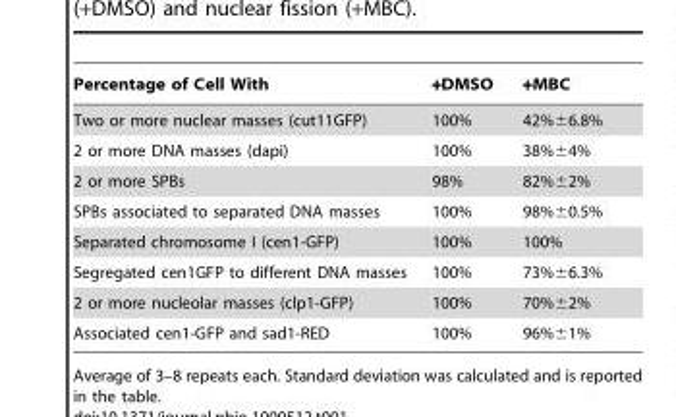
<table><thead><tr><td>Percentage of Cell With</td><td>+DMSO</td><td>+MBC</td></tr></thead><tbody><tr><td>Two or more nuclear masses (cut11GFP)</td><td>100%</td><td>42%±6.8%</td></tr><tr><td>2 or more DNA masses (dapi)</td><td>100%</td><td>38%±4%</td></tr><tr><td>2 or more SPBs</td><td>98%</td><td>82%±2%</td></tr><tr><td>SPBs associated to separated DNA masses</td><td>100%</td><td>98%±0.5%</td></tr><tr><td>Separated chromosome I (cen1-GFP)</td><td>100%</td><td>100%</td></tr><tr><td>Segregated cen1GFP to different DNA masses</td><td>100%</td><td>73%±6.3%</td></tr><tr><td>2 or more nucleolar masses (clp1-GFP)</td><td>100%</td><td>70%±2%</td></tr><tr><td>Associated cen1-GFP and sad1-RED</td><td>100%</td><td>96%±1%</td></tr></tbody></table>